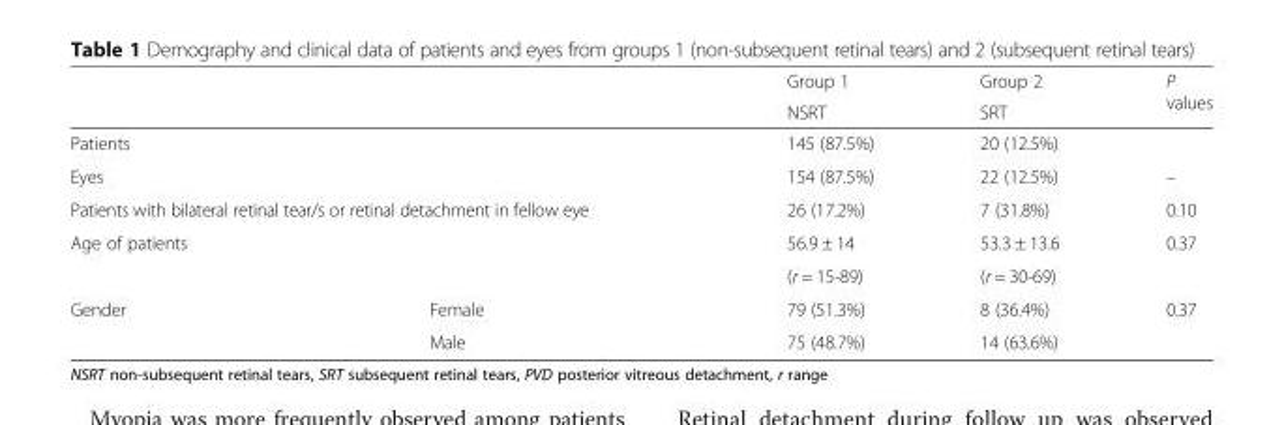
<table><thead><tr><td rowspan="2"></td><td rowspan="2"></td><td rowspan="2">Group 1 NSRT</td><td rowspan="2">Group 2 SRT</td><td rowspan="2">P values</td></tr><tr></tr></thead><tbody><tr><td colspan="2">Patients</td><td>145 (87.5%)</td><td>20 (12.5%)</td><td></td></tr><tr><td colspan="2">Eyes</td><td>154 (87.5%)</td><td>22 (12.5%)</td><td>–</td></tr><tr><td colspan="2">Patients with bilateral retinal tear/s or retinal detachment in fellow eye</td><td>26 (17.2%)</td><td>7 (31.8%)</td><td>0.10</td></tr><tr><td rowspan="2" colspan="2">Age of patients</td><td>56.9 ± 14</td><td>53.3 ± 13.6</td><td rowspan="2">0.37</td></tr><tr><td>(r = 15-89)</td><td>(r = 30-69)</td></tr><tr><td rowspan="2">Gender</td><td>Female</td><td>79 (51.3%)</td><td>8 (36.4%)</td><td rowspan="2">0.37</td></tr><tr><td>Male</td><td>75 (48.7%)</td><td>14 (63.6%)</td></tr></tbody></table>